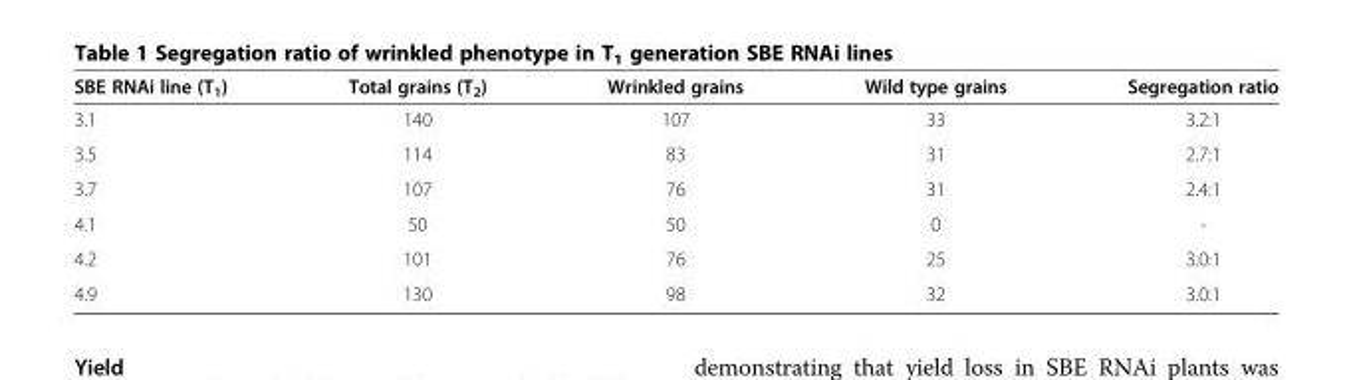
<table><thead><tr><td>SBE RNAi line (T<sub>1</sub>)</td><td>Total grains (T<sub>2</sub>)</td><td>Wrinkled grains</td><td>Wild type grains</td><td>Segregation ratio</td></tr></thead><tbody><tr><td>3.1</td><td>140</td><td>107</td><td>33</td><td>3.2:1</td></tr><tr><td>3.5</td><td>114</td><td>83</td><td>31</td><td>2.7:1</td></tr><tr><td>3.7</td><td>107</td><td>76</td><td>31</td><td>2.4:1</td></tr><tr><td>4.1</td><td>50</td><td>50</td><td>0</td><td>-</td></tr><tr><td>4.2</td><td>101</td><td>76</td><td>25</td><td>3.0:1</td></tr><tr><td>4.9</td><td>130</td><td>98</td><td>32</td><td>3.0:1</td></tr></tbody></table>